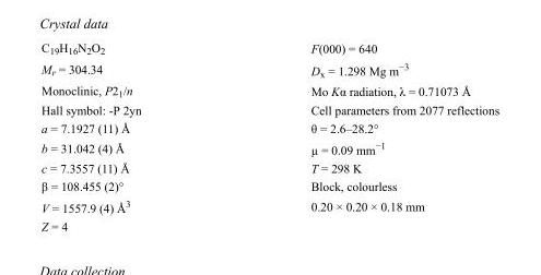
<table><tbody><tr><td>C<sub>19</sub>H<sub>16</sub>N<sub>2</sub>O<sub>2</sub></td><td>F(000) = 640</td></tr><tr><td>M<sub>r</sub> = 304.34</td><td>D<sub>x</sub> = 1.298 Mg m<sup>−3</sup></td></tr><tr><td>Monoclinic, P2<sub>1</sub>/n</td><td>Mo Kα radiation, λ = 0.71073 Å</td></tr><tr><td>Hall symbol: -P 2yn</td><td>Cell parameters from 2077 reflections</td></tr><tr><td>a = 7.1927 (11) Å</td><td>θ = 2.6–28.2°</td></tr><tr><td>b = 31.042 (4) Å</td><td>µ = 0.09 mm<sup>−1</sup></td></tr><tr><td>c = 7.3557 (11) Å</td><td>T = 298 K</td></tr><tr><td>β = 108.455 (2)°</td><td>Block, colourless</td></tr><tr><td>V = 1557.9 (4) Å<sup>3</sup></td><td>0.20 × 0.20 × 0.18 mm</td></tr><tr><td>Z = 4</td><td></td></tr></tbody></table>